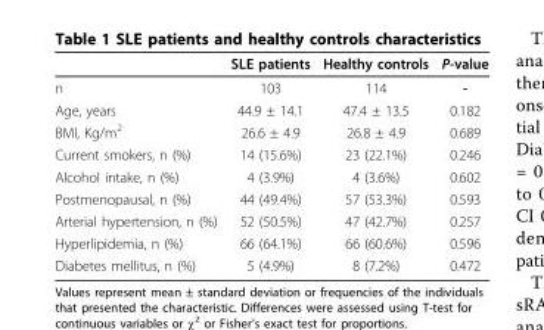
<table><thead><tr><td></td><td>SLE patients</td><td>Healthy controls</td><td>P-value</td></tr></thead><tbody><tr><td>n</td><td>103</td><td>114</td><td>-</td></tr><tr><td>Age, years</td><td>44.9 ± 14.1</td><td>47.4 ± 13.5</td><td>0.182</td></tr><tr><td>BMI, Kg/m<sup>2</sup></td><td>26.6 ± 4.9</td><td>26.8 ± 4.9</td><td>0.689</td></tr><tr><td>Current smokers, n (%)</td><td>14 (15.6%)</td><td>23 (22.1%)</td><td>0.246</td></tr><tr><td>Alcohol intake, n (%)</td><td>4 (3.9%)</td><td>4 (3.6%)</td><td>0.602</td></tr><tr><td>Postmenopausal, n (%)</td><td>44 (49.4%)</td><td>57 (53.3%)</td><td>0.593</td></tr><tr><td>Arterial hypertension, n (%)</td><td>52 (50.5%)</td><td>47 (42.7%)</td><td>0.257</td></tr><tr><td>Hyperlipidemia, n (%)</td><td>66 (64.1%)</td><td>66 (60.6%)</td><td>0.596</td></tr><tr><td>Diabetes mellitus, n (%)</td><td>5 (4.9%)</td><td>8 (7.2%)</td><td>0.472</td></tr></tbody></table>